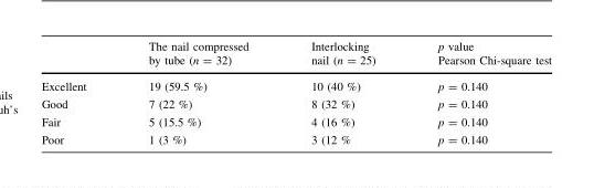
<table><thead><tr><td></td><td>The nail compressed by tube (n = 32)</td><td>Interlocking nail (n = 25)</td><td>p value Pearson Chi-square test</td></tr></thead><tbody><tr><td>Excellent</td><td>19 (59.5 %)</td><td>10 (40 %)</td><td>p = 0.140</td></tr><tr><td>Good</td><td>7 (22 %)</td><td>8 (32 %)</td><td>p = 0.140</td></tr><tr><td>Fair</td><td>5 (15.5 %)</td><td>4 (16 %)</td><td>p = 0.140</td></tr><tr><td>Poor</td><td>1 (3 %)</td><td>3 (12 %</td><td>p = 0.140</td></tr></tbody></table>